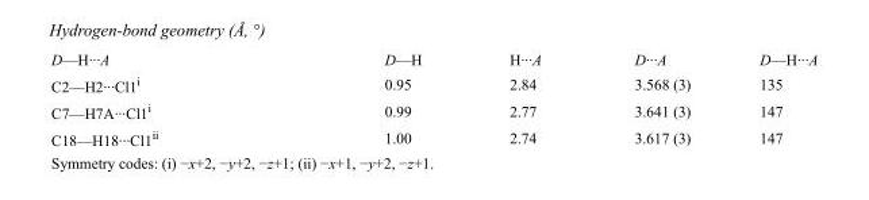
<table><tbody><tr><td>D—H···A</td><td>D—H</td><td>H···A</td><td>D···A</td><td>D—H···A</td></tr><tr><td>C2—H2···Cl1<sup>i</sup></td><td>0.95</td><td>2.84</td><td>3.568 (3)</td><td>135</td></tr><tr><td>C7—H7A···Cl1<sup>i</sup></td><td>0.99</td><td>2.77</td><td>3.641 (3)</td><td>147</td></tr><tr><td>C18—H18···Cl1<sup>ii</sup></td><td>1.00</td><td>2.74</td><td>3.617 (3)</td><td>147</td></tr></tbody></table>